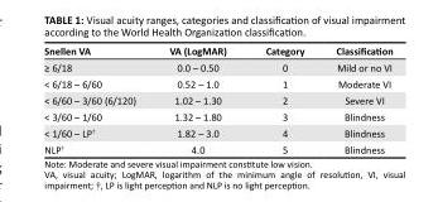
<table><thead><tr><td>Snellen VA</td><td>VA (LogMAR)</td><td>Category</td><td>Classification</td></tr></thead><tbody><tr><td>≥ 6/18</td><td>0.0 – 0.50</td><td>0</td><td>Mild or no VI</td></tr><tr><td>&lt; 6/18 – 6/60</td><td>0.52 – 1.0</td><td>1</td><td>Moderate VI</td></tr><tr><td>&lt; 6/60 – 3/60 (6/120)</td><td>1.02 – 1.30</td><td>2</td><td>Severe VI</td></tr><tr><td>&lt; 3/60 – 1/60</td><td>1.32 – 1.80</td><td>3</td><td>Blindness</td></tr><tr><td>&lt; 1/60 – LP<sup>†</sup></td><td>1.82 – 3.0</td><td>4</td><td>Blindness</td></tr><tr><td>NLP<sup>†</sup></td><td>4.0</td><td>5</td><td>Blindness</td></tr></tbody></table>